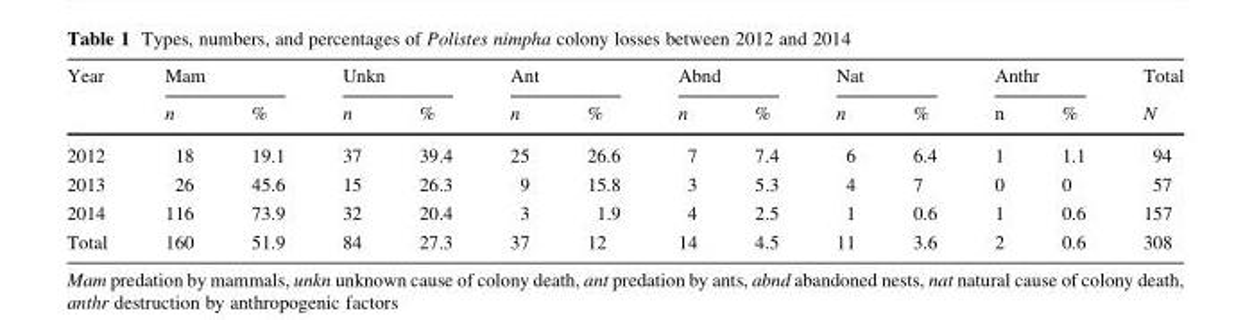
<table><thead><tr><td rowspan="2">Year</td><td colspan="2">Mam</td><td colspan="2">Unkn</td><td colspan="2">Ant</td><td colspan="2">Abnd</td><td colspan="2">Nat</td><td colspan="2">Anthr</td><td rowspan="2">Total N</td></tr><tr><td>n</td><td>%</td><td>n</td><td>%</td><td>n</td><td>%</td><td>n</td><td>%</td><td>n</td><td>%</td><td>n</td><td>%</td></tr></thead><tbody><tr><td>2012</td><td>18</td><td>19.1</td><td>37</td><td>39.4</td><td>25</td><td>26.6</td><td>7</td><td>7.4</td><td>6</td><td>6.4</td><td>1</td><td>1.1</td><td>94</td></tr><tr><td>2013</td><td>26</td><td>45.6</td><td>15</td><td>26.3</td><td>9</td><td>15.8</td><td>3</td><td>5.3</td><td>4</td><td>7</td><td>0</td><td>0</td><td>57</td></tr><tr><td>2014</td><td>116</td><td>73.9</td><td>32</td><td>20.4</td><td>3</td><td>1.9</td><td>4</td><td>2.5</td><td>1</td><td>0.6</td><td>1</td><td>0.6</td><td>157</td></tr><tr><td>Total</td><td>160</td><td>51.9</td><td>84</td><td>27.3</td><td>37</td><td>12</td><td>14</td><td>4.5</td><td>11</td><td>3.6</td><td>2</td><td>0.6</td><td>308</td></tr></tbody></table>